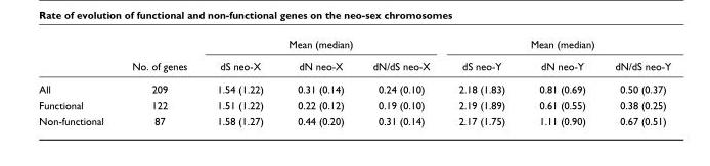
<table><thead><tr><td rowspan="2"></td><td rowspan="2">No. of genes</td><td colspan="3">Mean (median)</td><td colspan="3">Mean (median)</td></tr><tr><td>dS neo-X</td><td>dN neo-X</td><td>dN/dS neo-X</td><td>dS neo-Y</td><td>dN neo-Y</td><td>dN/dS neo-Y</td></tr></thead><tbody><tr><td>All</td><td>209</td><td>1.54 (1.22)</td><td>0.31 (0.14)</td><td>0.24 (0.10)</td><td>2.18 (1.83)</td><td>0.81 (0.69)</td><td>0.50 (0.37)</td></tr><tr><td>Functional</td><td>122</td><td>1.51 (1.22)</td><td>0.22 (0.12)</td><td>0.19 (0.10)</td><td>2.19 (1.89)</td><td>0.61 (0.55)</td><td>0.38 (0.25)</td></tr><tr><td>Non-functional</td><td>87</td><td>1.58 (1.27)</td><td>0.44 (0.20)</td><td>0.31 (0.14)</td><td>2.17 (1.75)</td><td>1.11 (0.90)</td><td>0.67 (0.51)</td></tr></tbody></table>